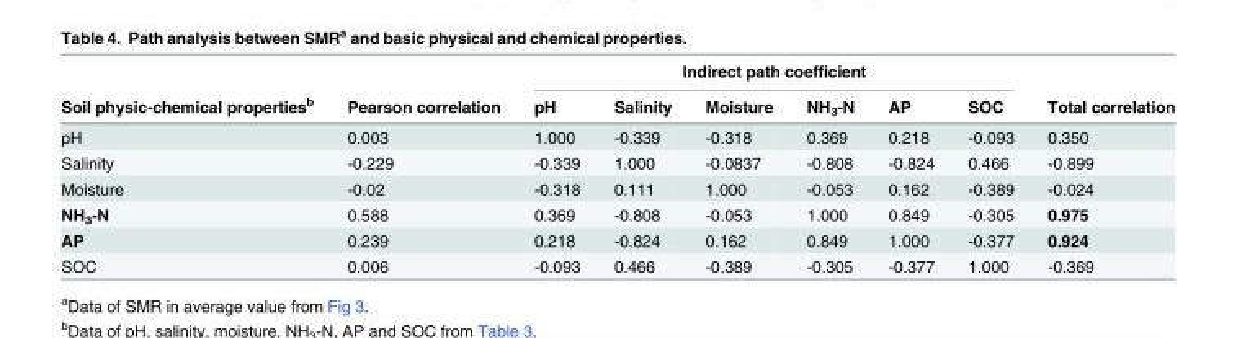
<table><thead><tr><td rowspan="2">Soil physic-chemical properties<sup>b</sup></td><td rowspan="2">Pearson correlation</td><td colspan="6">Indirect path coefficient</td><td rowspan="2">Total correlation</td></tr><tr><td>pH</td><td>Salinity</td><td>Moisture</td><td>NH<sub>3</sub>-N</td><td>AP</td><td>SOC</td></tr></thead><tbody><tr><td>pH</td><td>0.003</td><td>1.000</td><td>-0.339</td><td>-0.318</td><td>0.369</td><td>0.218</td><td>-0.093</td><td>0.350</td></tr><tr><td>Salinity</td><td>-0.229</td><td>-0.339</td><td>1.000</td><td>-0.0837</td><td>-0.808</td><td>-0.824</td><td>0.466</td><td>-0.899</td></tr><tr><td>Moisture</td><td>-0.02</td><td>-0.318</td><td>0.111</td><td>1.000</td><td>-0.053</td><td>0.162</td><td>-0.389</td><td>-0.024</td></tr><tr><td>NH<sub>3</sub>-N</td><td>0.588</td><td>0.369</td><td>-0.808</td><td>-0.053</td><td>1.000</td><td>0.849</td><td>-0.305</td><td>0.975</td></tr><tr><td>AP</td><td>0.239</td><td>0.218</td><td>-0.824</td><td>0.162</td><td>0.849</td><td>1.000</td><td>-0.377</td><td>0.924</td></tr><tr><td>SOC</td><td>0.006</td><td>-0.093</td><td>0.466</td><td>-0.389</td><td>-0.305</td><td>-0.377</td><td>1.000</td><td>-0.369</td></tr></tbody></table>